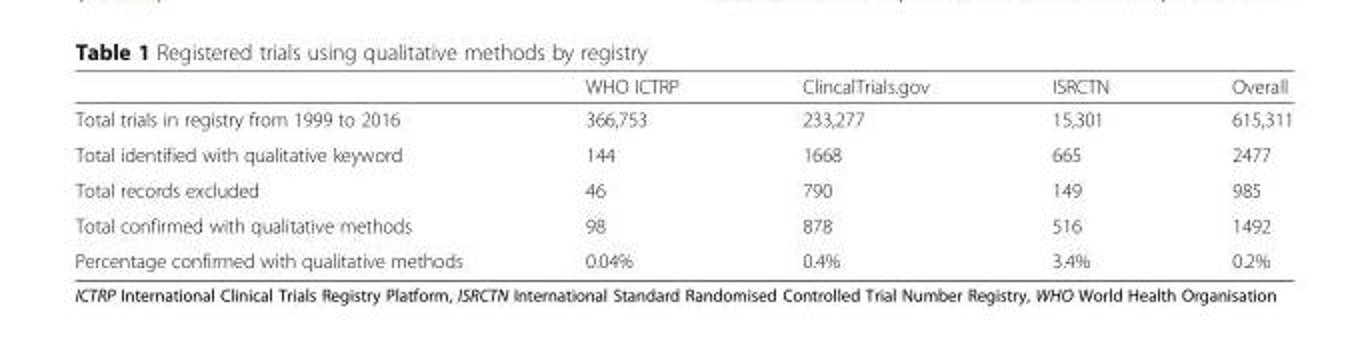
<table><thead><tr><td></td><td>WHO ICTRP</td><td>ClincalTrials.gov</td><td>ISRCTN</td><td>Overall</td></tr></thead><tbody><tr><td>Total trials in registry from 1999 to 2016</td><td>366,753</td><td>233,277</td><td>15,301</td><td>615,311</td></tr><tr><td>Total identified with qualitative keyword</td><td>144</td><td>1668</td><td>665</td><td>2477</td></tr><tr><td>Total records excluded</td><td>46</td><td>790</td><td>149</td><td>985</td></tr><tr><td>Total confirmed with qualitative methods</td><td>98</td><td>878</td><td>516</td><td>1492</td></tr><tr><td>Percentage confirmed with qualitative methods</td><td>0.04%</td><td>0.4%</td><td>3.4%</td><td>0.2%</td></tr></tbody></table>